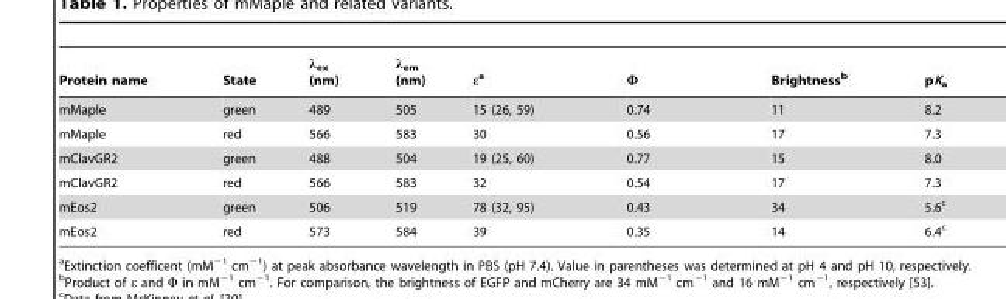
<table><thead><tr><td>Protein name</td><td>State</td><td>λ<sub>ex</sub> (nm)</td><td>λ<sub>em</sub> (nm)</td><td>ε<sup>a</sup></td><td>Φ</td><td>Brightness<sup>b</sup></td><td>pK<sub>a</sub></td></tr></thead><tbody><tr><td>mMaple</td><td>green</td><td>489</td><td>505</td><td>15 (26, 59)</td><td>0.74</td><td>11</td><td>8.2</td></tr><tr><td>mMaple</td><td>red</td><td>566</td><td>583</td><td>30</td><td>0.56</td><td>17</td><td>7.3</td></tr><tr><td>mClavGR2</td><td>green</td><td>488</td><td>504</td><td>19 (25, 60)</td><td>0.77</td><td>15</td><td>8.0</td></tr><tr><td>mClavGR2</td><td>red</td><td>566</td><td>583</td><td>32</td><td>0.54</td><td>17</td><td>7.3</td></tr><tr><td>mEos2</td><td>green</td><td>506</td><td>519</td><td>78 (32, 95)</td><td>0.43</td><td>34</td><td>5.6<sup>c</sup></td></tr><tr><td>mEos2</td><td>red</td><td>573</td><td>584</td><td>39</td><td>0.35</td><td>14</td><td>6.4<sup>c</sup></td></tr></tbody></table>